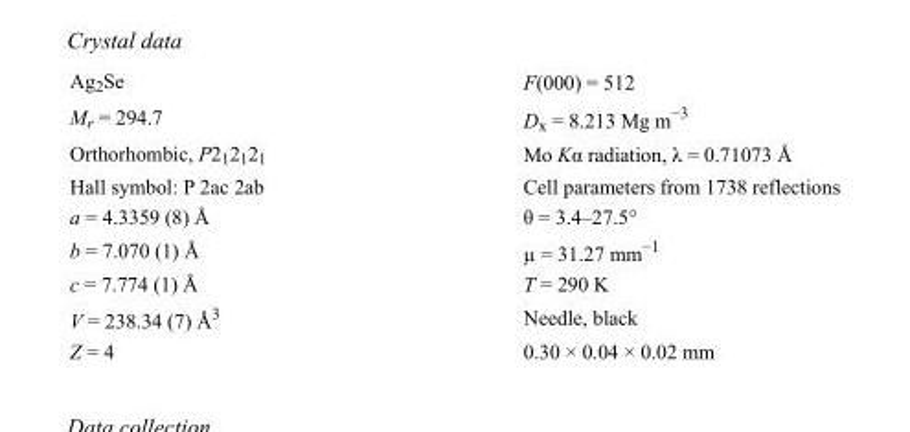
<table><tbody><tr><td>Ag<sub>2</sub>Se</td><td>F(000) = 512</td></tr><tr><td>M<sub>r</sub> = 294.7</td><td>D<sub>x</sub> = 8.213 Mg m<sup>−3</sup></td></tr><tr><td>Orthorhombic, P2<sub>1</sub>2<sub>1</sub>2<sub>1</sub></td><td>Mo Kα radiation, λ = 0.71073 Å</td></tr><tr><td>Hall symbol: P 2ac 2ab</td><td>Cell parameters from 1738 reflections</td></tr><tr><td>a = 4.3359 (8) Å</td><td>θ = 3.4–27.5°</td></tr><tr><td>b = 7.070 (1) Å</td><td>µ = 31.27 mm<sup>−1</sup></td></tr><tr><td>c = 7.774 (1) Å</td><td>T = 290 K</td></tr><tr><td>V = 238.34 (7) Å<sup>3</sup></td><td>Needle, black</td></tr><tr><td>Z = 4</td><td>0.30 × 0.04 × 0.02 mm</td></tr></tbody></table>